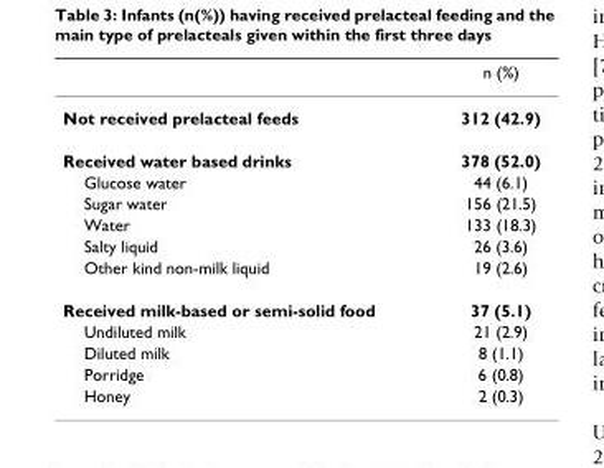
<table><thead><tr><td></td><td>n (%)</td></tr></thead><tbody><tr><td>Not received prelacteal feeds</td><td>312 (42.9)</td></tr><tr><td>Received water based drinks</td><td>378 (52.0)</td></tr><tr><td>Glucose water</td><td>44 (6.1)</td></tr><tr><td>Sugar water</td><td>156 (21.5)</td></tr><tr><td>Water</td><td>133 (18.3)</td></tr><tr><td>Salty liquid</td><td>26 (3.6)</td></tr><tr><td>Other kind non-milk liquid</td><td>19 (2.6)</td></tr><tr><td>Received milk-based or semi-solid food</td><td>37 (5.1)</td></tr><tr><td>Undiluted milk</td><td>21 (2.9)</td></tr><tr><td>Diluted milk</td><td>8 (1.1)</td></tr><tr><td>Porridge</td><td>6 (0.8)</td></tr><tr><td>Honey</td><td>2 (0.3)</td></tr></tbody></table>